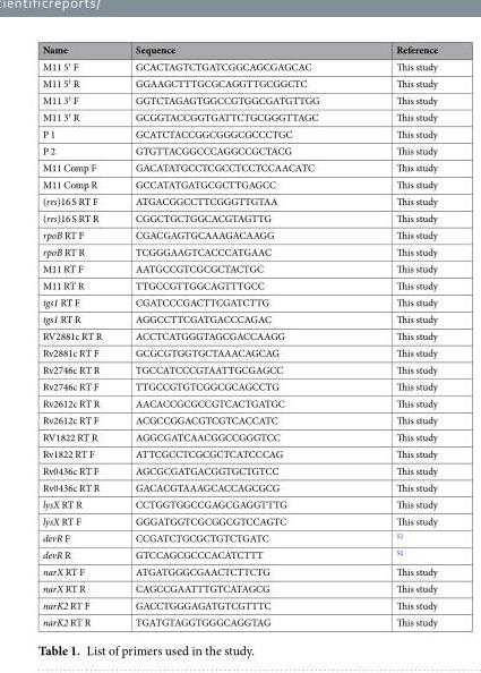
<table><thead><tr><td>Name</td><td>Sequence</td><td>Reference</td></tr></thead><tbody><tr><td>M11 5′ F</td><td>GCACTAGTCTGATCGGCAGCGAGCAC</td><td>This study</td></tr><tr><td>M11 5′ R</td><td>GGAAGCTTTGCGCAGGTTGCGGCTC</td><td>This study</td></tr><tr><td>M11 3′ F</td><td>GGTCTAGAGTGGCCGTGGCGATGTTGG</td><td>This study</td></tr><tr><td>M11 3′ R</td><td>GCGGTACCGGTGATTCTGCGGGTTAGC</td><td>This study</td></tr><tr><td>P 1</td><td>GCATCTACCGGCGGGCGCCCTGC</td><td>This study</td></tr><tr><td>P 2</td><td>GTGTTACGGCCCAGGCCGCTACG</td><td>This study</td></tr><tr><td>M11 Comp F</td><td>GACATATGCCTCGCCTCCTCCAACATC</td><td>This study</td></tr><tr><td>M11 Comp R</td><td>GCCATATGATGCGCTTGAGCC</td><td>This study</td></tr><tr><td>(rrs)16 S RT F</td><td>ATGACGGCCTTCGGGTTGTAA</td><td>This study</td></tr><tr><td>(rrs)16 S RT R</td><td>CGGCTGCTGGCACGTAGTTG</td><td>This study</td></tr><tr><td>rpoB RT F</td><td>CGACGAGTGCAAAGACAAGG</td><td>This study</td></tr><tr><td>rpoB RT R</td><td>TCGGGAAGTCACCCATGAAC</td><td>This study</td></tr><tr><td>M11 RT F</td><td>AATGCCGTCGCGCTACTGC</td><td>This study</td></tr><tr><td>M11 RT R</td><td>TTGCCGTTGGCAGTTTGCC</td><td>This study</td></tr><tr><td>tgs1 RT F</td><td>CGATCCCGACTTCGATCTTG</td><td>This study</td></tr><tr><td>tgs1 RT R</td><td>AGGCCTTCGATGACCCAGAC</td><td>This study</td></tr><tr><td>RV2881c RT R</td><td>ACCTCATGGGTAGCGACCAAGG</td><td>This study</td></tr><tr><td>Rv2881c RT F</td><td>GCGCGTGGTGCTAAACAGCAG</td><td>This study</td></tr><tr><td>Rv2746c RT R</td><td>TGCCATCCCGTAATTGCGAGCC</td><td>This study</td></tr><tr><td>Rv2746c RT F</td><td>TTGCCGTGTCGGCGCAGCCTG</td><td>This study</td></tr><tr><td>Rv2612c RT R</td><td>AACACCGCGCCGTCACTGATGC</td><td>This study</td></tr><tr><td>Rv2612c RT F</td><td>ACGCCGGACGTCGTCACCATC</td><td>This study</td></tr><tr><td>RV1822 RT R</td><td>AGGCGATCAACGGCCGGGTCC</td><td>This study</td></tr><tr><td>Rv1822 RT F</td><td>ATTCGCCTCGCGCTCATCCCAG</td><td>This study</td></tr><tr><td>Rv0436c RT F</td><td>AGCGCGATGACGGTGCTGTCC</td><td>This study</td></tr><tr><td>Rv0436c RT R</td><td>GACACGTAAAGCACCAGCGCG</td><td>This study</td></tr><tr><td>lysX RT R</td><td>CCTGGTGGCCGAGCGAGGTTTG</td><td>This study</td></tr><tr><td>lysX RT F</td><td>GGGATGGTCGCGGCGTCCAGTC</td><td>This study</td></tr><tr><td>devR F</td><td>CCGATCTGCGCTGTCTGATC</td><td><sup>52</sup></td></tr><tr><td>devR R</td><td>GTCCAGCGCCCACATCTTT</td><td><sup>52</sup></td></tr><tr><td>narX RT F</td><td>ATGATGGGCGAACTCTTCTG</td><td>This study</td></tr><tr><td>narX RT R</td><td>CAGCCGAATTTGTCATAGCG</td><td>This study</td></tr><tr><td>narK2 RT F</td><td>GACCTGGGAGATGTCGTTTC</td><td>This study</td></tr><tr><td>narK2 RT R</td><td>TGATGTAGGTGGGCAGGTAG</td><td>This study</td></tr></tbody></table>